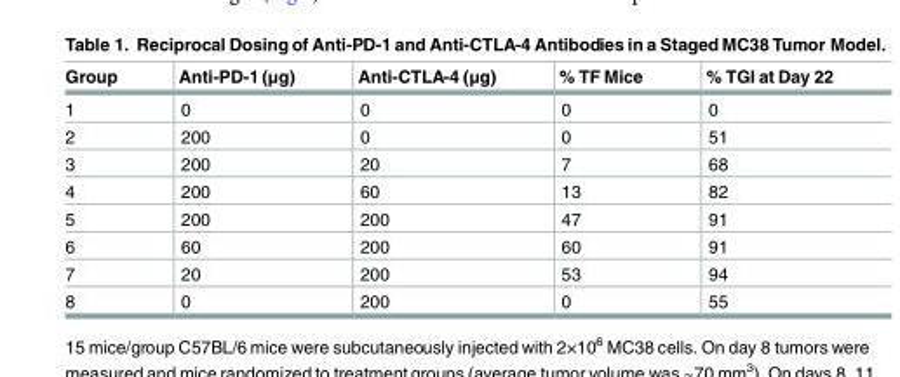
<table><thead><tr><td>Group</td><td>Anti-PD-1 (μg)</td><td>Anti-CTLA-4 (μg)</td><td>% TF Mice</td><td>% TGI at Day 22</td></tr></thead><tbody><tr><td>1</td><td>0</td><td>0</td><td>0</td><td>0</td></tr><tr><td>2</td><td>200</td><td>0</td><td>0</td><td>51</td></tr><tr><td>3</td><td>200</td><td>20</td><td>7</td><td>68</td></tr><tr><td>4</td><td>200</td><td>60</td><td>13</td><td>82</td></tr><tr><td>5</td><td>200</td><td>200</td><td>47</td><td>91</td></tr><tr><td>6</td><td>60</td><td>200</td><td>60</td><td>91</td></tr><tr><td>7</td><td>20</td><td>200</td><td>53</td><td>94</td></tr><tr><td>8</td><td>0</td><td>200</td><td>0</td><td>55</td></tr></tbody></table>